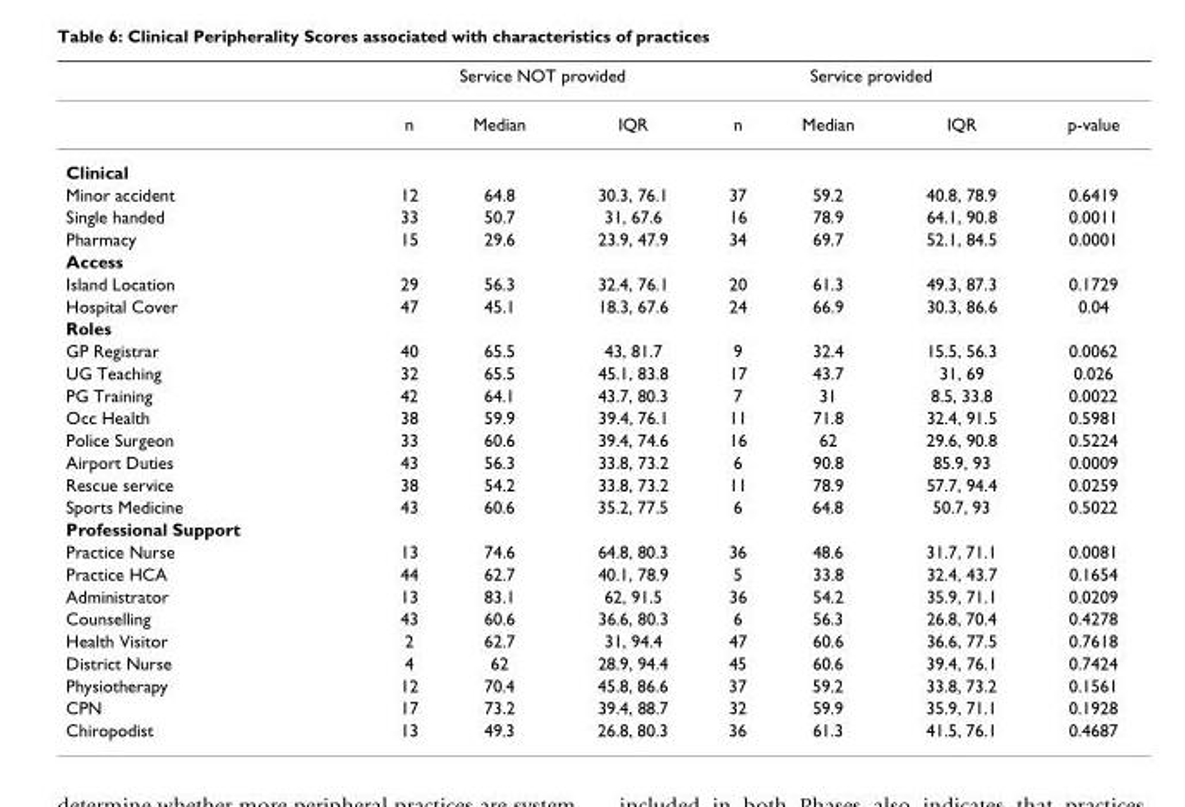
<table><thead><tr><td rowspan="2"></td><td colspan="3">Service NOT provided</td><td colspan="3">Service provided</td><td rowspan="2">p-value</td></tr><tr><td>n</td><td>Median</td><td>IQR</td><td>n</td><td>Median</td><td>IQR</td></tr></thead><tbody><tr><td colspan="8">Clinical</td></tr><tr><td>Minor accident</td><td>12</td><td>64.8</td><td>30.3, 76.1</td><td>37</td><td>59.2</td><td>40.8, 78.9</td><td>0.6419</td></tr><tr><td>Single handed</td><td>33</td><td>50.7</td><td>31, 67.6</td><td>16</td><td>78.9</td><td>64.1, 90.8</td><td>0.0011</td></tr><tr><td>Pharmacy</td><td>15</td><td>29.6</td><td>23.9, 47.9</td><td>34</td><td>69.7</td><td>52.1, 84.5</td><td>0.0001</td></tr><tr><td colspan="8">Access</td></tr><tr><td>Island Location</td><td>29</td><td>56.3</td><td>32.4, 76.1</td><td>20</td><td>61.3</td><td>49.3, 87.3</td><td>0.1729</td></tr><tr><td>Hospital Cover</td><td>47</td><td>45.1</td><td>18.3, 67.6</td><td>24</td><td>66.9</td><td>30.3, 86.6</td><td>0.04</td></tr><tr><td colspan="8">Roles</td></tr><tr><td>GP Registrar</td><td>40</td><td>65.5</td><td>43, 81.7</td><td>9</td><td>32.4</td><td>15.5, 56.3</td><td>0.0062</td></tr><tr><td>UG Teaching</td><td>32</td><td>65.5</td><td>45.1, 83.8</td><td>17</td><td>43.7</td><td>31, 69</td><td>0.026</td></tr><tr><td>PG Training</td><td>42</td><td>64.1</td><td>43.7, 80.3</td><td>7</td><td>31</td><td>8.5, 33.8</td><td>0.0022</td></tr><tr><td>Occ Health</td><td>38</td><td>59.9</td><td>39.4, 76.1</td><td>11</td><td>71.8</td><td>32.4, 91.5</td><td>0.5981</td></tr><tr><td>Police Surgeon</td><td>33</td><td>60.6</td><td>39.4, 74.6</td><td>16</td><td>62</td><td>29.6, 90.8</td><td>0.5224</td></tr><tr><td>Airport Duties</td><td>43</td><td>56.3</td><td>33.8, 73.2</td><td>6</td><td>90.8</td><td>85.9, 93</td><td>0.0009</td></tr><tr><td>Rescue service</td><td>38</td><td>54.2</td><td>33.8, 73.2</td><td>11</td><td>78.9</td><td>57.7, 94.4</td><td>0.0259</td></tr><tr><td>Sports Medicine</td><td>43</td><td>60.6</td><td>35.2, 77.5</td><td>6</td><td>64.8</td><td>50.7, 93</td><td>0.5022</td></tr><tr><td colspan="8">Professional Support</td></tr><tr><td>Practice Nurse</td><td>13</td><td>74.6</td><td>64.8, 80.3</td><td>36</td><td>48.6</td><td>31.7, 71.1</td><td>0.0081</td></tr><tr><td>Practice HCA</td><td>44</td><td>62.7</td><td>40.1, 78.9</td><td>5</td><td>33.8</td><td>32.4, 43.7</td><td>0.1654</td></tr><tr><td>Administrator</td><td>13</td><td>83.1</td><td>62, 91.5</td><td>36</td><td>54.2</td><td>35.9, 71.1</td><td>0.0209</td></tr><tr><td>Counselling</td><td>43</td><td>60.6</td><td>36.6, 80.3</td><td>6</td><td>56.3</td><td>26.8, 70.4</td><td>0.4278</td></tr><tr><td>Health Visitor</td><td>2</td><td>62.7</td><td>31, 94.4</td><td>47</td><td>60.6</td><td>36.6, 77.5</td><td>0.7618</td></tr><tr><td>District Nurse</td><td>4</td><td>62</td><td>28.9, 94.4</td><td>45</td><td>60.6</td><td>39.4, 76.1</td><td>0.7424</td></tr><tr><td>Physiotherapy</td><td>12</td><td>70.4</td><td>45.8, 86.6</td><td>37</td><td>59.2</td><td>33.8, 73.2</td><td>0.1561</td></tr><tr><td>CPN</td><td>17</td><td>73.2</td><td>39.4, 88.7</td><td>32</td><td>59.9</td><td>35.9, 71.1</td><td>0.1928</td></tr><tr><td>Chiropodist</td><td>13</td><td>49.3</td><td>26.8, 80.3</td><td>36</td><td>61.3</td><td>41.5, 76.1</td><td>0.4687</td></tr></tbody></table>